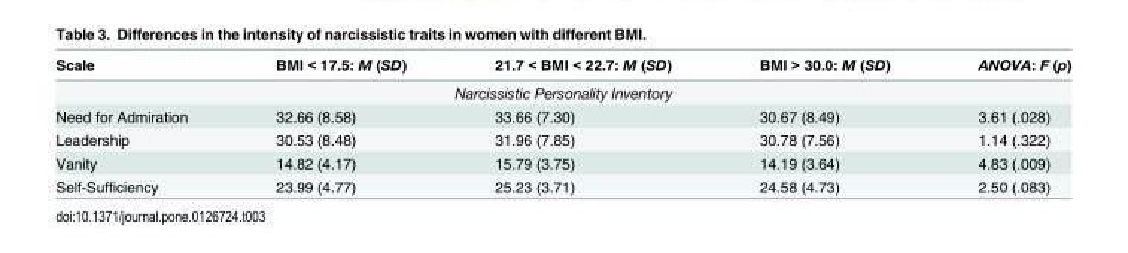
<table><thead><tr><td>Scale</td><td>BMI &lt; 17.5: M (SD)</td><td>21.7 &lt; BMI &lt; 22.7: M (SD)</td><td>BMI &gt; 30.0: M (SD)</td><td>ANOVA: F (p)</td></tr></thead><tbody><tr><td colspan="5">Narcissistic Personality Inventory</td></tr><tr><td>Need for Admiration</td><td>32.66 (8.58)</td><td>33.66 (7.30)</td><td>30.67 (8.49)</td><td>3.61 (.028)</td></tr><tr><td>Leadership</td><td>30.53 (8.48)</td><td>31.96 (7.85)</td><td>30.78 (7.56)</td><td>1.14 (.322)</td></tr><tr><td>Vanity</td><td>14.82 (4.17)</td><td>15.79 (3.75)</td><td>14.19 (3.64)</td><td>4.83 (.009)</td></tr><tr><td>Self-Sufficiency</td><td>23.99 (4.77)</td><td>25.23 (3.71)</td><td>24.58 (4.73)</td><td>2.50 (.083)</td></tr></tbody></table>